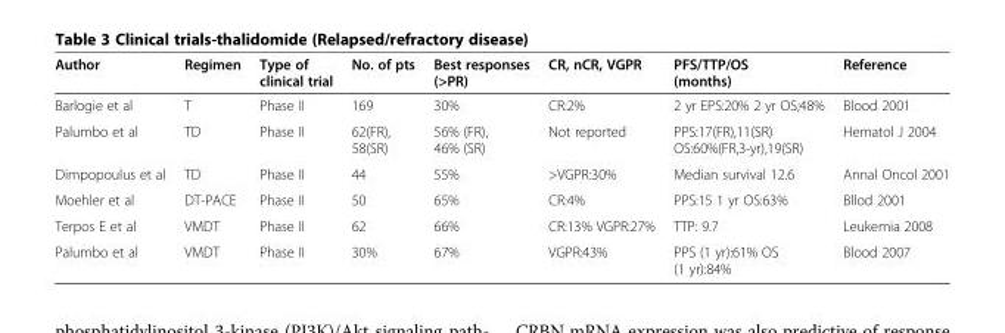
<table><thead><tr><td>Author</td><td>Regimen</td><td>Type of clinical trial</td><td>No. of pts</td><td>Best responses (&gt;PR)</td><td>CR, nCR, VGPR</td><td>PFS/TTP/OS (months)</td><td>Reference</td></tr></thead><tbody><tr><td>Barlogie et al</td><td>T</td><td>Phase II</td><td>169</td><td>30%</td><td>CR:2%</td><td>2 yr EPS:20% 2 yr OS;48%</td><td>Blood 2001</td></tr><tr><td>Palumbo et al</td><td>TD</td><td>Phase II</td><td>62(FR), 58(SR)</td><td>56% (FR), 46% (SR)</td><td>Not reported</td><td>PPS:17(FR),11(SR) OS:60%(FR,3-yr),19(SR)</td><td>Hematol J 2004</td></tr><tr><td>Dimpopoulus et al</td><td>TD</td><td>Phase II</td><td>44</td><td>55%</td><td>&gt;VGPR:30%</td><td>Median survival 12.6</td><td>Annal Oncol 2001</td></tr><tr><td>Moehler et al</td><td>DT-PACE</td><td>Phase II</td><td>50</td><td>65%</td><td>CR:4%</td><td>PPS:15 1 yr OS:63%</td><td>Bllod 2001</td></tr><tr><td>Terpos E et al</td><td>VMDT</td><td>Phase II</td><td>62</td><td>66%</td><td>CR:13% VGPR:27%</td><td>TTP: 9.7</td><td>Leukemia 2008</td></tr><tr><td>Palumbo et al</td><td>VMDT</td><td>Phase II</td><td>30%</td><td>67%</td><td>VGPR:43%</td><td>PPS (1 yr):61% OS (1 yr):84%</td><td>Blood 2007</td></tr></tbody></table>